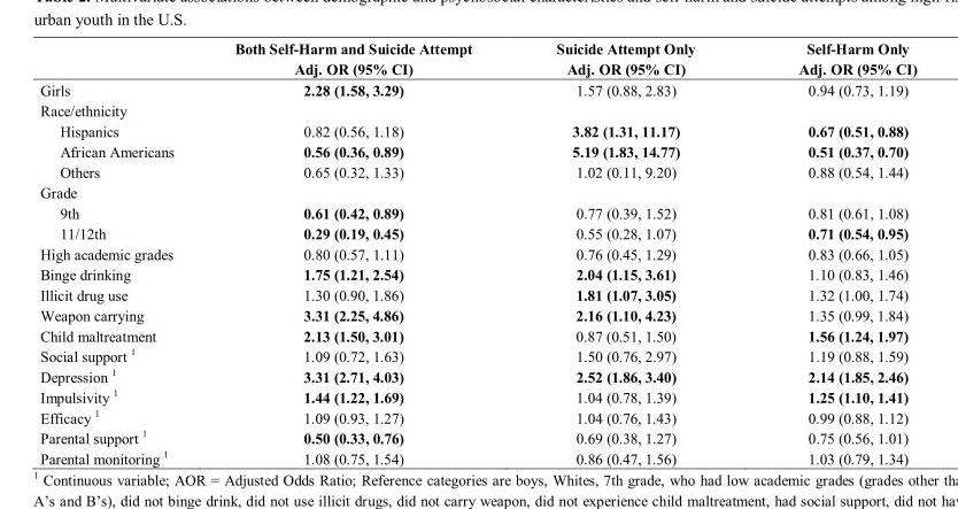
<table><thead><tr><td rowspan="2"></td><td rowspan="2">Both Self-Harm and Suicide Attempt Adj. OR (95% CI)</td><td rowspan="2">Suicide Attempt Only Adj. OR (95% CI)</td><td rowspan="2">Self-Harm Only Adj. OR (95% CI)</td></tr><tr></tr></thead><tbody><tr><td>Girls</td><td>2.28 (1.58, 3.29)</td><td>1.57 (0.88, 2.83)</td><td>0.94 (0.73, 1.19)</td></tr><tr><td colspan="4">Race/ethnicity</td></tr><tr><td>Hispanics</td><td>0.82 (0.56, 1.18)</td><td>3.82 (1.31, 11.17)</td><td>0.67 (0.51, 0.88)</td></tr><tr><td>African Americans</td><td>0.56 (0.36, 0.89)</td><td>5.19 (1.83, 14.77)</td><td>0.51 (0.37, 0.70)</td></tr><tr><td>Others</td><td>0.65 (0.32, 1.33)</td><td>1.02 (0.11, 9.20)</td><td>0.88 (0.54, 1.44)</td></tr><tr><td colspan="4">Grade</td></tr><tr><td>9th</td><td>0.61 (0.42, 0.89)</td><td>0.77 (0.39, 1.52)</td><td>0.81 (0.61, 1.08)</td></tr><tr><td>11/12th</td><td>0.29 (0.19, 0.45)</td><td>0.55 (0.28, 1.07)</td><td>0.71 (0.54, 0.95)</td></tr><tr><td>High academic grades</td><td>0.80 (0.57, 1.11)</td><td>0.76 (0.45, 1.29)</td><td>0.83 (0.66, 1.05)</td></tr><tr><td>Binge drinking</td><td>1.75 (1.21, 2.54)</td><td>2.04 (1.15, 3.61)</td><td>1.10 (0.83, 1.46)</td></tr><tr><td>Illicit drug use</td><td>1.30 (0.90, 1.86)</td><td>1.81 (1.07, 3.05)</td><td>1.32 (1.00, 1.74)</td></tr><tr><td>Weapon carrying</td><td>3.31 (2.25, 4.86)</td><td>2.16 (1.10, 4.23)</td><td>1.35 (0.99, 1.84)</td></tr><tr><td>Child maltreatment</td><td>2.13 (1.50, 3.01)</td><td>0.87 (0.51, 1.50)</td><td>1.56 (1.24, 1.97)</td></tr><tr><td>Social support <sup>1</sup></td><td>1.09 (0.72, 1.63)</td><td>1.50 (0.76, 2.97)</td><td>1.19 (0.88, 1.59)</td></tr><tr><td>Depression <sup>1</sup></td><td>3.31 (2.71, 4.03)</td><td>2.52 (1.86, 3.40)</td><td>2.14 (1.85, 2.46)</td></tr><tr><td>Impulsivity <sup>1</sup></td><td>1.44 (1.22, 1.69)</td><td>1.04 (0.78, 1.39)</td><td>1.25 (1.10, 1.41)</td></tr><tr><td>Efficacy <sup>1</sup></td><td>1.09 (0.93, 1.27)</td><td>1.04 (0.76, 1.43)</td><td>0.99 (0.88, 1.12)</td></tr><tr><td>Parental support <sup>1</sup></td><td>0.50 (0.33, 0.76)</td><td>0.69 (0.38, 1.27)</td><td>0.75 (0.56, 1.01)</td></tr><tr><td>Parental monitoring <sup>1</sup></td><td>1.08 (0.75, 1.54)</td><td>0.86 (0.47, 1.56)</td><td>1.03 (0.79, 1.34)</td></tr></tbody></table>